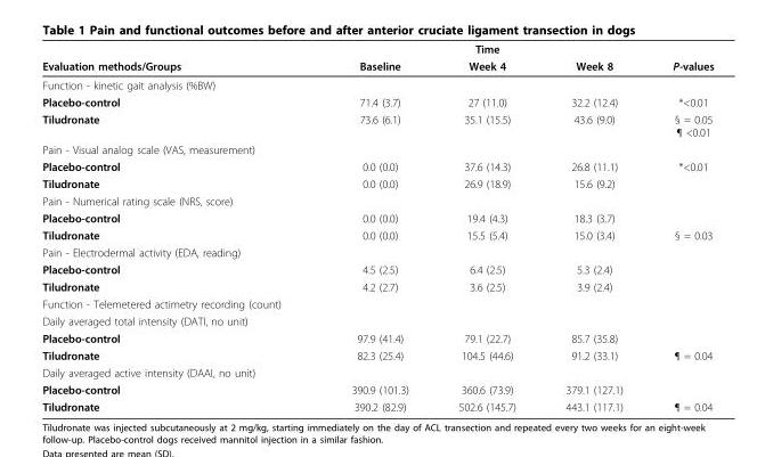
<table><thead><tr><td rowspan="2">Evaluation methods/Groups</td><td colspan="3">Time</td><td rowspan="2">P-values</td></tr><tr><td>Baseline</td><td>Week 4</td><td>Week 8</td></tr></thead><tbody><tr><td colspan="5">Function - kinetic gait analysis (%BW)</td></tr><tr><td>Placebo-control</td><td>71.4 (3.7)</td><td>27 (11.0)</td><td>32.2 (12.4)</td><td>*&lt;0.01</td></tr><tr><td>Tiludronate</td><td>73.6 (6.1)</td><td>35.1 (15.5)</td><td>43.6 (9.0)</td><td>§ = 0.05 ¶ &lt;0.01</td></tr><tr><td colspan="5">Pain - Visual analog scale (VAS, measurement)</td></tr><tr><td>Placebo-control</td><td>0.0 (0.0)</td><td>37.6 (14.3)</td><td>26.8 (11.1)</td><td>*&lt;0.01</td></tr><tr><td>Tiludronate</td><td>0.0 (0.0)</td><td>26.9 (18.9)</td><td>15.6 (9.2)</td><td></td></tr><tr><td colspan="5">Pain - Numerical rating scale (NRS, score)</td></tr><tr><td>Placebo-control</td><td>0.0 (0.0)</td><td>19.4 (4.3)</td><td>18.3 (3.7)</td><td></td></tr><tr><td>Tiludronate</td><td>0.0 (0.0)</td><td>15.5 (5.4)</td><td>15.0 (3.4)</td><td>§ = 0.03</td></tr><tr><td colspan="5">Pain - Electrodermal activity (EDA, reading)</td></tr><tr><td>Placebo-control</td><td>4.5 (2.5)</td><td>6.4 (2.5)</td><td>5.3 (2.4)</td><td></td></tr><tr><td>Tiludronate</td><td>4.2 (2.7)</td><td>3.6 (2.5)</td><td>3.9 (2.4)</td><td></td></tr><tr><td colspan="5">Function - Telemetered actimetry recording (count)</td></tr><tr><td colspan="5">Daily averaged total intensity (DATI, no unit)</td></tr><tr><td>Placebo-control</td><td>97.9 (41.4)</td><td>79.1 (22.7)</td><td>85.7 (35.8)</td><td></td></tr><tr><td>Tiludronate</td><td>82.3 (25.4)</td><td>104.5 (44.6)</td><td>91.2 (33.1)</td><td>¶ = 0.04</td></tr><tr><td colspan="5">Daily averaged active intensity (DAAI, no unit)</td></tr><tr><td>Placebo-control</td><td>390.9 (101.3)</td><td>360.6 (73.9)</td><td>379.1 (127.1)</td><td></td></tr><tr><td>Tiludronate</td><td>390.2 (82.9)</td><td>502.6 (145.7)</td><td>443.1 (117.1)</td><td>¶ = 0.04</td></tr></tbody></table>